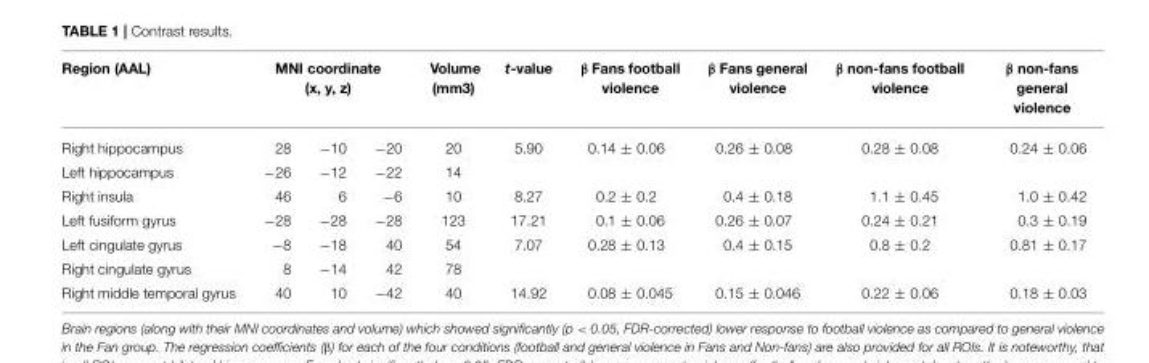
<table><thead><tr><td rowspan="2">Region (AAL) Right hippocampus</td><td colspan="3">MNI coordinate (x, y, z)</td><td rowspan="2">Volume (mm3) 20</td><td rowspan="2">t-value 5.90</td><td rowspan="2">β Fans football violence 0.14 ± 0.06</td><td rowspan="2">β Fans general violence 0.26 ± 0.08</td><td rowspan="2">β non-fans football violence 0.28 ± 0.08</td><td rowspan="2">β non-fans general violence 0.24 ± 0.06</td></tr><tr><td>28</td><td>−10</td><td>−20</td></tr></thead><tbody><tr><td>Left hippocampus</td><td>−26</td><td>−12</td><td>−22</td><td>14</td><td></td><td></td><td></td><td></td><td></td></tr><tr><td>Right insula</td><td>46</td><td>6</td><td>−6</td><td>10</td><td>8.27</td><td>0.2 ± 0.2</td><td>0.4 ± 0.18</td><td>1.1 ± 0.45</td><td>1.0 ± 0.42</td></tr><tr><td>Left fusiform gyrus</td><td>−28</td><td>−28</td><td>−28</td><td>123</td><td>17.21</td><td>0.1 ± 0.06</td><td>0.26 ± 0.07</td><td>0.24 ± 0.21</td><td>0.3 ± 0.19</td></tr><tr><td>Left cingulate gyrus</td><td>−8</td><td>−18</td><td>40</td><td>54</td><td>7.07</td><td>0.28 ± 0.13</td><td>0.4 ± 0.15</td><td>0.8 ± 0.2</td><td>0.81 ± 0.17</td></tr><tr><td>Right cingulate gyrus</td><td>8</td><td>−14</td><td>42</td><td>78</td><td></td><td></td><td></td><td></td><td></td></tr><tr><td>Right middle temporal gyrus</td><td>40</td><td>10</td><td>−42</td><td>40</td><td>14.92</td><td>0.08 ± 0.045</td><td>0.15 ± 0.046</td><td>0.22 ± 0.06</td><td>0.18 ± 0.03</td></tr></tbody></table>